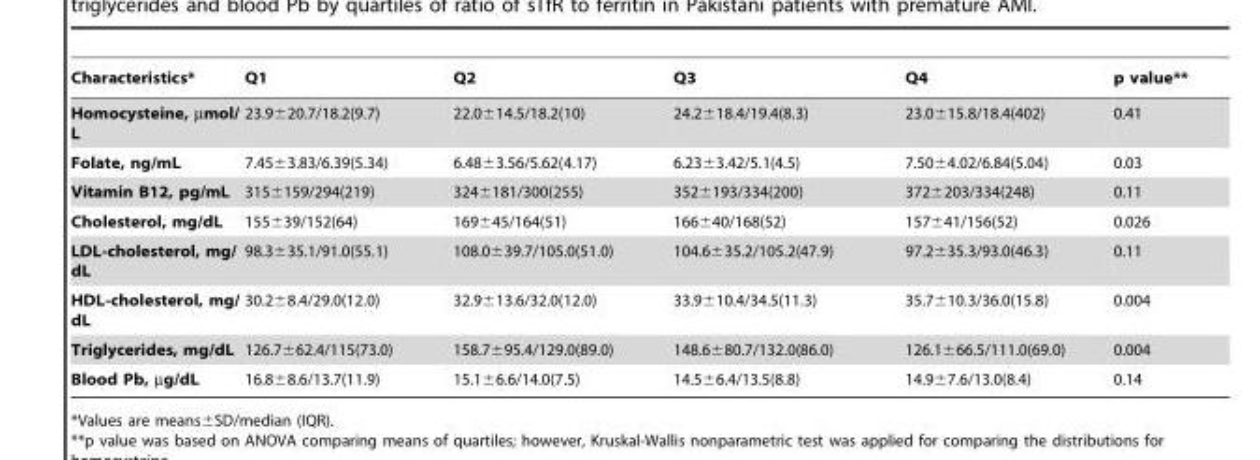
<table><thead><tr><td>Characteristics*</td><td>Q1</td><td>Q2</td><td>Q3</td><td>Q4</td><td>p value**</td></tr></thead><tbody><tr><td>Homocysteine, µmol/ L</td><td>23.9±20.7/18.2(9.7)</td><td>22.0±14.5/18.2(10)</td><td>24.2±18.4/19.4(8.3)</td><td>23.0±15.8/18.4(402)</td><td>0.41</td></tr><tr><td>Folate, ng/mL</td><td>7.45±3.83/6.39(5.34)</td><td>6.48±3.56/5.62(4.17)</td><td>6.23±3.42/5.1(4.5)</td><td>7.50±4.02/6.84(5.04)</td><td>0.03</td></tr><tr><td>Vitamin B12, pg/mL</td><td>315±159/294(219)</td><td>324±181/300(255)</td><td>352±193/334(200)</td><td>372±203/334(248)</td><td>0.11</td></tr><tr><td>Cholesterol, mg/dL</td><td>155±39/152(64)</td><td>169±45/164(51)</td><td>166±40/168(52)</td><td>157±41/156(52)</td><td>0.026</td></tr><tr><td>LDL-cholesterol, mg/ dL</td><td>98.3±35.1/91.0(55.1)</td><td>108.0±39.7/105.0(51.0)</td><td>104.6±35.2/105.2(47.9)</td><td>97.2±35.3/93.0(46.3)</td><td>0.11</td></tr><tr><td>HDL-cholesterol, mg/ dL</td><td>30.2±8.4/29.0(12.0)</td><td>32.9±13.6/32.0(12.0)</td><td>33.9±10.4/34.5(11.3)</td><td>35.7±10.3/36.0(15.8)</td><td>0.004</td></tr><tr><td>Triglycerides, mg/dL</td><td>126.7±62.4/115(73.0)</td><td>158.7±95.4/129.0(89.0)</td><td>148.6±80.7/132.0(86.0)</td><td>126.1±66.5/111.0(69.0)</td><td>0.004</td></tr><tr><td>Blood Pb, µg/dL</td><td>16.8±8.6/13.7(11.9)</td><td>15.1±6.6/14.0(7.5)</td><td>14.5±6.4/13.5(8.8)</td><td>14.9±7.6/13.0(8.4)</td><td>0.14</td></tr></tbody></table>